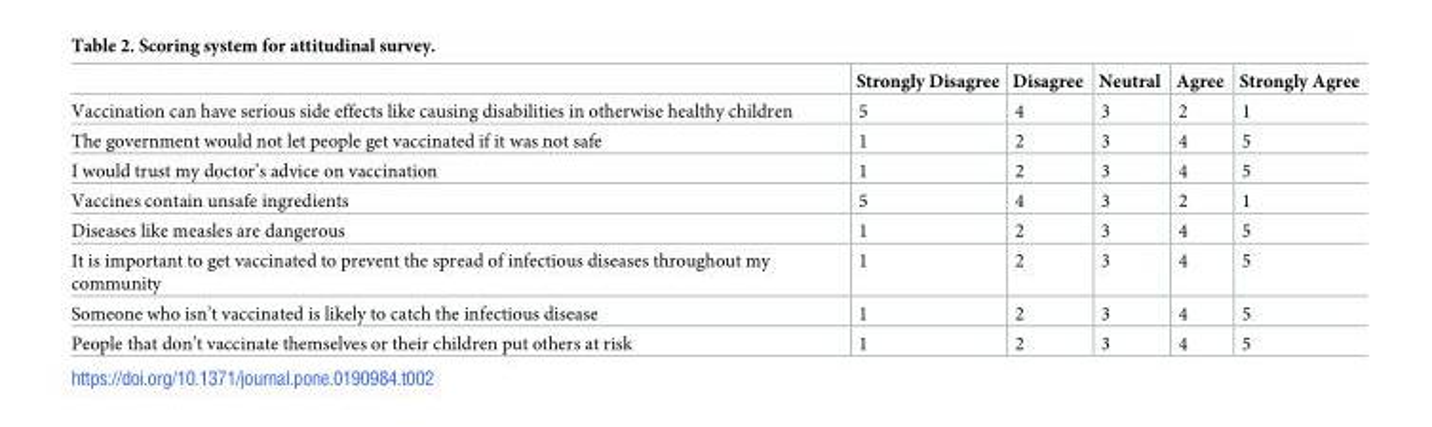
<table><thead><tr><td></td><td>Strongly Disagree</td><td>Disagree</td><td>Neutral</td><td>Agree</td><td>Strongly Agree</td></tr></thead><tbody><tr><td>Vaccination can have serious side effects like causing disabilities in otherwise healthy children</td><td>5</td><td>4</td><td>3</td><td>2</td><td>1</td></tr><tr><td>The government would not let people get vaccinated if it was not safe</td><td>1</td><td>2</td><td>3</td><td>4</td><td>5</td></tr><tr><td>I would trust my doctor’s advice on vaccination</td><td>1</td><td>2</td><td>3</td><td>4</td><td>5</td></tr><tr><td>Vaccines contain unsafe ingredients</td><td>5</td><td>4</td><td>3</td><td>2</td><td>1</td></tr><tr><td>Diseases like measles are dangerous</td><td>1</td><td>2</td><td>3</td><td>4</td><td>5</td></tr><tr><td>It is important to get vaccinated to prevent the spread of infectious diseases throughout my community</td><td>1</td><td>2</td><td>3</td><td>4</td><td>5</td></tr><tr><td>Someone who isn’t vaccinated is likely to catch the infectious disease</td><td>1</td><td>2</td><td>3</td><td>4</td><td>5</td></tr><tr><td>People that don’t vaccinate themselves or their children put others at risk</td><td>1</td><td>2</td><td>3</td><td>4</td><td>5</td></tr></tbody></table>